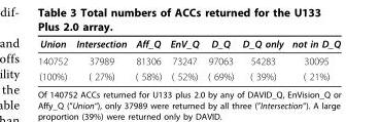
<table><thead><tr><td>Union</td><td>Intersection</td><td>Aff_Q</td><td>EnV_Q</td><td>D_Q</td><td>D_Q only</td><td>not in D_Q</td></tr></thead><tbody><tr><td>140752</td><td>37989</td><td>81306</td><td>73247</td><td>97063</td><td>54283</td><td>30095</td></tr><tr><td>(100%)</td><td>( 27%)</td><td>( 58%)</td><td>( 52%)</td><td>( 69%)</td><td>( 39%)</td><td>( 21%)</td></tr></tbody></table>